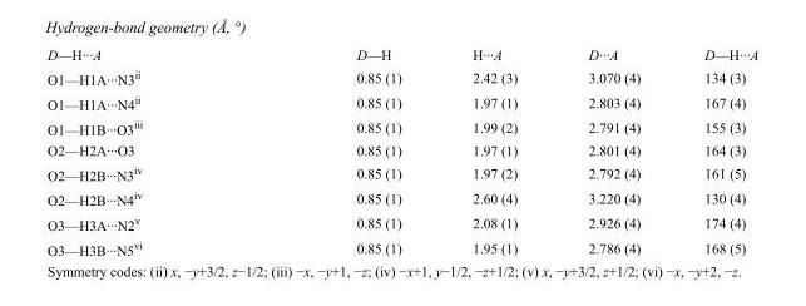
<table><tbody><tr><td>D—H···A</td><td>D—H</td><td>H···A</td><td>D···A</td><td>D—H···A</td></tr><tr><td>O1—H1A···N3<sup>ii</sup></td><td>0.85 (1)</td><td>2.42 (3)</td><td>3.070 (4)</td><td>134 (3)</td></tr><tr><td>O1—H1A···N4<sup>ii</sup></td><td>0.85 (1)</td><td>1.97 (1)</td><td>2.803 (4)</td><td>167 (4)</td></tr><tr><td>O1—H1B···O3<sup>iii</sup></td><td>0.85 (1)</td><td>1.99 (2)</td><td>2.791 (4)</td><td>155 (3)</td></tr><tr><td>O2—H2A···O3</td><td>0.85 (1)</td><td>1.97 (1)</td><td>2.801 (4)</td><td>164 (3)</td></tr><tr><td>O2—H2B···N3<sup>iv</sup></td><td>0.85 (1)</td><td>1.97 (2)</td><td>2.792 (4)</td><td>161 (5)</td></tr><tr><td>O2—H2B···N4<sup>iv</sup></td><td>0.85 (1)</td><td>2.60 (4)</td><td>3.220 (4)</td><td>130 (4)</td></tr><tr><td>O3—H3A···N2<sup>v</sup></td><td>0.85 (1)</td><td>2.08 (1)</td><td>2.926 (4)</td><td>174 (4)</td></tr><tr><td>O3—H3B···N5<sup>vi</sup></td><td>0.85 (1)</td><td>1.95 (1)</td><td>2.786 (4)</td><td>168 (5)</td></tr></tbody></table>